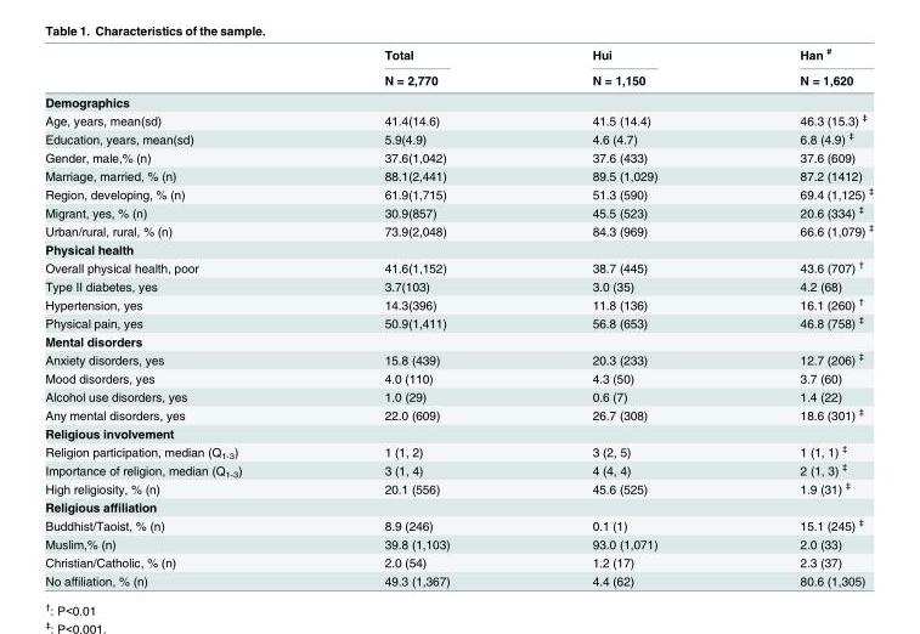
<table><thead><tr><td rowspan="2"></td><td rowspan="2">Total N = 2,770</td><td rowspan="2">Hui N = 1,150</td><td rowspan="2">Han <sup>#</sup> N = 1,620</td></tr><tr></tr></thead><tbody><tr><td colspan="4">Demographics</td></tr><tr><td>Age, years, mean(sd)</td><td>41.4(14.6)</td><td>41.5 (14.4)</td><td>46.3 (15.3) <sup>‡</sup></td></tr><tr><td>Education, years, mean(sd)</td><td>5.9(4.9)</td><td>4.6 (4.7)</td><td>6.8 (4.9) <sup>‡</sup></td></tr><tr><td>Gender, male,% (n)</td><td>37.6(1,042)</td><td>37.6 (433)</td><td>37.6 (609)</td></tr><tr><td>Marriage, married, % (n)</td><td>88.1(2,441)</td><td>89.5 (1,029)</td><td>87.2 (1412)</td></tr><tr><td>Region, developing, % (n)</td><td>61.9(1,715)</td><td>51.3 (590)</td><td>69.4 (1,125) <sup>‡</sup></td></tr><tr><td>Migrant, yes, % (n)</td><td>30.9(857)</td><td>45.5 (523)</td><td>20.6 (334) <sup>‡</sup></td></tr><tr><td>Urban/rural, rural, % (n)</td><td>73.9(2,048)</td><td>84.3 (969)</td><td>66.6 (1,079) <sup>‡</sup></td></tr><tr><td colspan="4">Physical health</td></tr><tr><td>Overall physical health, poor</td><td>41.6(1,152)</td><td>38.7 (445)</td><td>43.6 (707) <sup>†</sup></td></tr><tr><td>Type II diabetes, yes</td><td>3.7(103)</td><td>3.0 (35)</td><td>4.2 (68)</td></tr><tr><td>Hypertension, yes</td><td>14.3(396)</td><td>11.8 (136)</td><td>16.1 (260) <sup>†</sup></td></tr><tr><td>Physical pain, yes</td><td>50.9(1,411)</td><td>56.8 (653)</td><td>46.8 (758) <sup>‡</sup></td></tr><tr><td colspan="4">Mental disorders</td></tr><tr><td>Anxiety disorders, yes</td><td>15.8 (439)</td><td>20.3 (233)</td><td>12.7 (206) <sup>‡</sup></td></tr><tr><td>Mood disorders, yes</td><td>4.0 (110)</td><td>4.3 (50)</td><td>3.7 (60)</td></tr><tr><td>Alcohol use disorders, yes</td><td>1.0 (29)</td><td>0.6 (7)</td><td>1.4 (22)</td></tr><tr><td>Any mental disorders, yes</td><td>22.0 (609)</td><td>26.7 (308)</td><td>18.6 (301) <sup>‡</sup></td></tr><tr><td colspan="4">Religious involvement</td></tr><tr><td>Religion participation, median (Q<sub>1-3</sub>)</td><td>1 (1, 2)</td><td>3 (2, 5)</td><td>1 (1, 1) <sup>‡</sup></td></tr><tr><td>Importance of religion, median (Q<sub>1-3</sub>)</td><td>3 (1, 4)</td><td>4 (4, 4)</td><td>2 (1, 3) <sup>‡</sup></td></tr><tr><td>High religiosity, % (n)</td><td>20.1 (556)</td><td>45.6 (525)</td><td>1.9 (31) <sup>‡</sup></td></tr><tr><td colspan="4">Religious affiliation</td></tr><tr><td>Buddhist/Taoist, % (n)</td><td>8.9 (246)</td><td>0.1 (1)</td><td>15.1 (245) <sup>‡</sup></td></tr><tr><td>Muslim,% (n)</td><td>39.8 (1,103)</td><td>93.0 (1,071)</td><td>2.0 (33)</td></tr><tr><td>Christian/Catholic, % (n)</td><td>2.0 (54)</td><td>1.2 (17)</td><td>2.3 (37)</td></tr><tr><td>No affiliation, % (n)</td><td>49.3 (1,367)</td><td>4.4 (62)</td><td>80.6 (1,305)</td></tr></tbody></table>